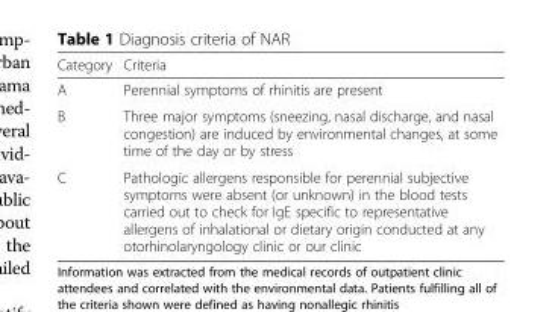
<table><thead><tr><td>Category</td><td>Criteria</td></tr></thead><tbody><tr><td>A</td><td>Perennial symptoms of rhinitis are present</td></tr><tr><td>B</td><td>Three major symptoms (sneezing, nasal discharge, and nasal congestion) are induced by environmental changes, at some time of the day or by stress</td></tr><tr><td>C</td><td>Pathologic allergens responsible for perennial subjective symptoms were absent (or unknown) in the blood tests carried out to check for IgE specific to representative allergens of inhalational or dietary origin conducted at any otorhinolaryngology clinic or our clinic</td></tr></tbody></table>